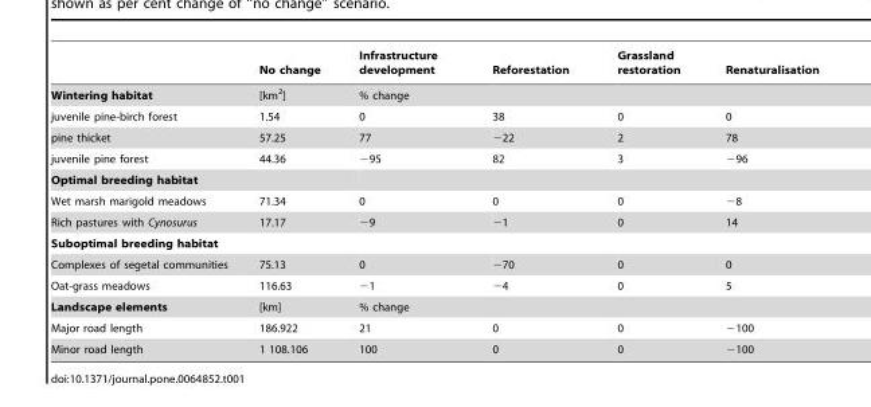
<table><thead><tr><td></td><td>No change</td><td>Infrastructure development</td><td>Reforestation</td><td>Grassland restoration</td><td>Renaturalisation</td></tr></thead><tbody><tr><td>Wintering habitat</td><td>[km<sup>2</sup>]</td><td colspan="4">% change</td></tr><tr><td>juvenile pine-birch forest</td><td>1.54</td><td>0</td><td>38</td><td>0</td><td>0</td></tr><tr><td>pine thicket</td><td>57.25</td><td>77</td><td>−22</td><td>2</td><td>78</td></tr><tr><td>juvenile pine forest</td><td>44.36</td><td>−95</td><td>82</td><td>3</td><td>−96</td></tr><tr><td colspan="6">Optimal breeding habitat</td></tr><tr><td>Wet marsh marigold meadows</td><td>71.34</td><td>0</td><td>0</td><td>0</td><td>−8</td></tr><tr><td>Rich pastures with Cynosurus</td><td>17.17</td><td>−9</td><td>−1</td><td>0</td><td>14</td></tr><tr><td colspan="6">Suboptimal breeding habitat</td></tr><tr><td>Complexes of segetal communities</td><td>75.13</td><td>0</td><td>−70</td><td>0</td><td>0</td></tr><tr><td>Oat-grass meadows</td><td>116.63</td><td>−1</td><td>−4</td><td>0</td><td>5</td></tr><tr><td>Landscape elements</td><td>[km]</td><td colspan="4">% change</td></tr><tr><td>Major road length</td><td>186.922</td><td>21</td><td>0</td><td>0</td><td>−100</td></tr><tr><td>Minor road length</td><td>1 108.106</td><td>100</td><td>0</td><td>0</td><td>−100</td></tr></tbody></table>